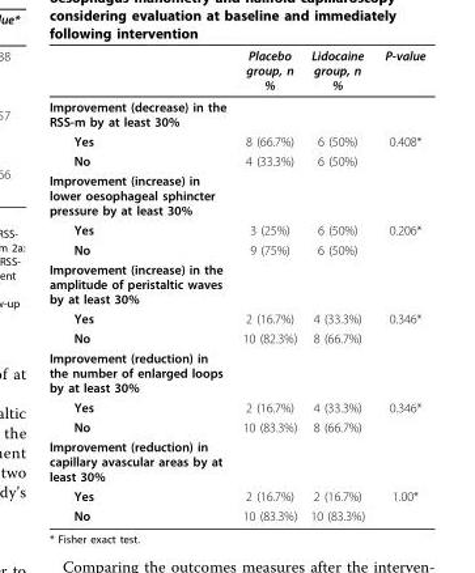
<table><thead><tr><td></td><td>Placebo group, n %</td><td>Lidocaine group, n %</td><td>P-value</td></tr></thead><tbody><tr><td colspan="4">Improvement (decrease) in the RSS-m by at least 30%</td></tr><tr><td>Yes</td><td>8 (66.7%)</td><td>6 (50%)</td><td>0.408*</td></tr><tr><td>No</td><td>4 (33.3%)</td><td>6 (50%)</td><td></td></tr><tr><td colspan="4">Improvement (increase) in lower oesophageal sphincter pressure by at least 30%</td></tr><tr><td>Yes</td><td>3 (25%)</td><td>6 (50%)</td><td>0.206*</td></tr><tr><td>No</td><td>9 (75%)</td><td>6 (50%)</td><td></td></tr><tr><td colspan="4">Improvement (increase) in the amplitude of peristaltic waves by at least 30%</td></tr><tr><td>Yes</td><td>2 (16.7%)</td><td>4 (33.3%)</td><td>0.346*</td></tr><tr><td>No</td><td>10 (82.3%)</td><td>8 (66.7%)</td><td></td></tr><tr><td colspan="4">Improvement (reduction) in the number of enlarged loops by at least 30%</td></tr><tr><td>Yes</td><td>2 (16.7%)</td><td>4 (33.3%)</td><td>0.346*</td></tr><tr><td>No</td><td>10 (83.3%)</td><td>8 (66.7%)</td><td></td></tr><tr><td colspan="4">Improvement (reduction) in capillary avascular areas by at least 30%</td></tr><tr><td>Yes</td><td>2 (16.7%)</td><td>2 (16.7%)</td><td>1.00*</td></tr><tr><td>No</td><td>10 (83.3%)</td><td>10 (83.3%)</td><td></td></tr></tbody></table>